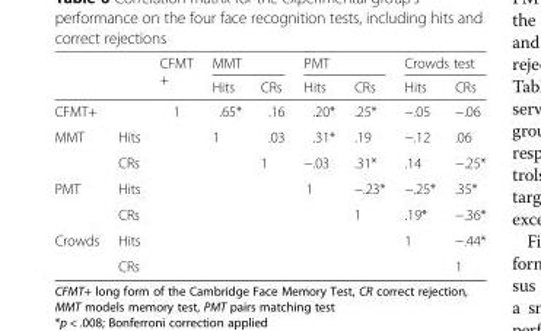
<table><thead><tr><td rowspan="2"></td><td rowspan="2"></td><td rowspan="2">CFMT +</td><td colspan="2">MMT</td><td colspan="2">PMT</td><td colspan="2">Crowds test</td></tr><tr><td>Hits</td><td>CRs</td><td>Hits</td><td>CRs</td><td>Hits</td><td>CRs</td></tr></thead><tbody><tr><td colspan="2">CFMT+</td><td>1</td><td>.65*</td><td>.16</td><td>.20*</td><td>.25*</td><td>−.05</td><td>−.06</td></tr><tr><td rowspan="2">MMT</td><td>Hits</td><td></td><td>1</td><td>.03</td><td>.31*</td><td>.19</td><td>−.12</td><td>.06</td></tr><tr><td>CRs</td><td></td><td></td><td>1</td><td>−.03</td><td>.31*</td><td>.14</td><td>−.25*</td></tr><tr><td rowspan="2">PMT</td><td>Hits</td><td></td><td></td><td></td><td>1</td><td>−.23*</td><td>−.25*</td><td>.35*</td></tr><tr><td>CRs</td><td></td><td></td><td></td><td></td><td>1</td><td>.19*</td><td>−.36*</td></tr><tr><td rowspan="2">Crowds</td><td>Hits</td><td></td><td></td><td></td><td></td><td></td><td>1</td><td>−.44*</td></tr><tr><td>CRs</td><td></td><td></td><td></td><td></td><td></td><td></td><td>1</td></tr></tbody></table>